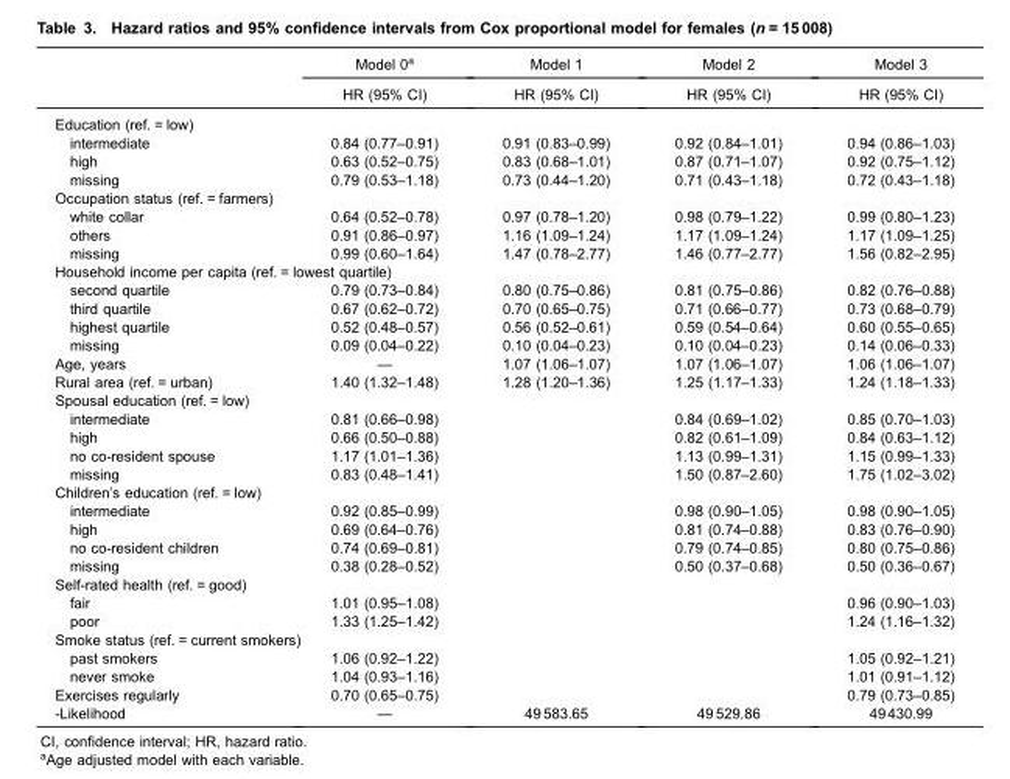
<table><thead><tr><td rowspan="2"></td><td rowspan="2">Model 0a HR (95% CI)</td><td rowspan="2">Model 1 HR (95% CI)</td><td rowspan="2">Model 2 HR (95% CI)</td><td rowspan="2">Model 3 HR (95% CI)</td></tr><tr></tr></thead><tbody><tr><td colspan="5">Education (ref. = low)</td></tr><tr><td>intermediate</td><td>0.84 (0.77–0.91)</td><td>0.91 (0.83–0.99)</td><td>0.92 (0.84–1.01)</td><td>0.94 (0.86–1.03)</td></tr><tr><td>high</td><td>0.63 (0.52–0.75)</td><td>0.83 (0.68–1.01)</td><td>0.87 (0.71–1.07)</td><td>0.92 (0.75–1.12)</td></tr><tr><td>missing</td><td>0.79 (0.53–1.18)</td><td>0.73 (0.44–1.20)</td><td>0.71 (0.43–1.18)</td><td>0.72 (0.43–1.18)</td></tr><tr><td colspan="5">Occupation status (ref. = farmers)</td></tr><tr><td>white collar</td><td>0.64 (0.52–0.78)</td><td>0.97 (0.78–1.20)</td><td>0.98 (0.79–1.22)</td><td>0.99 (0.80–1.23)</td></tr><tr><td>others</td><td>0.91 (0.86–0.97)</td><td>1.16 (1.09–1.24)</td><td>1.17 (1.09–1.24)</td><td>1.17 (1.09–1.25)</td></tr><tr><td>missing</td><td>0.99 (0.60–1.64)</td><td>1.47 (0.78–2.77)</td><td>1.46 (0.77–2.77)</td><td>1.56 (0.82–2.95)</td></tr><tr><td colspan="5">Household income per capita (ref. = lowest quartile)</td></tr><tr><td>second quartile</td><td>0.79 (0.73–0.84)</td><td>0.80 (0.75–0.86)</td><td>0.81 (0.75–0.86)</td><td>0.82 (0.76–0.88)</td></tr><tr><td>third quartile</td><td>0.67 (0.62–0.72)</td><td>0.70 (0.65–0.75)</td><td>0.71 (0.66–0.77)</td><td>0.73 (0.68–0.79)</td></tr><tr><td>highest quartile</td><td>0.52 (0.48–0.57)</td><td>0.56 (0.52–0.61)</td><td>0.59 (0.54–0.64)</td><td>0.60 (0.55–0.65)</td></tr><tr><td>missing</td><td>0.09 (0.04–0.22)</td><td>0.10 (0.04–0.23)</td><td>0.10 (0.04–0.23)</td><td>0.14 (0.06–0.33)</td></tr><tr><td>Age, years</td><td>—</td><td>1.07 (1.06–1.07)</td><td>1.07 (1.06–1.07)</td><td>1.06 (1.06–1.07)</td></tr><tr><td>Rural area (ref. = urban)</td><td>1.40 (1.32–1.48)</td><td>1.28 (1.20–1.36)</td><td>1.25 (1.17–1.33)</td><td>1.24 (1.18–1.33)</td></tr><tr><td colspan="5">Spousal education (ref. = low)</td></tr><tr><td>intermediate</td><td>0.81 (0.66–0.98)</td><td></td><td>0.84 (0.69–1.02)</td><td>0.85 (0.70–1.03)</td></tr><tr><td>high</td><td>0.66 (0.50–0.88)</td><td></td><td>0.82 (0.61–1.09)</td><td>0.84 (0.63–1.12)</td></tr><tr><td>no co-resident spouse</td><td>1.17 (1.01–1.36)</td><td></td><td>1.13 (0.99–1.31)</td><td>1.15 (0.99–1.33)</td></tr><tr><td>missing</td><td>0.83 (0.48–1.41)</td><td></td><td>1.50 (0.87–2.60)</td><td>1.75 (1.02–3.02)</td></tr><tr><td colspan="5">Children’s education (ref. = low)</td></tr><tr><td>intermediate</td><td>0.92 (0.85–0.99)</td><td></td><td>0.98 (0.90–1.05)</td><td>0.98 (0.90–1.05)</td></tr><tr><td>high</td><td>0.69 (0.64–0.76)</td><td></td><td>0.81 (0.74–0.88)</td><td>0.83 (0.76–0.90)</td></tr><tr><td>no co-resident children</td><td>0.74 (0.69–0.81)</td><td></td><td>0.79 (0.74–0.85)</td><td>0.80 (0.75–0.86)</td></tr><tr><td>missing</td><td>0.38 (0.28–0.52)</td><td></td><td>0.50 (0.37–0.68)</td><td>0.50 (0.36–0.67)</td></tr><tr><td colspan="5">Self-rated health (ref. = good)</td></tr><tr><td>fair</td><td>1.01 (0.95–1.08)</td><td></td><td></td><td>0.96 (0.90–1.03)</td></tr><tr><td>poor</td><td>1.33 (1.25–1.42)</td><td></td><td></td><td>1.24 (1.16–1.32)</td></tr><tr><td colspan="5">Smoke status (ref. = current smokers)</td></tr><tr><td>past smokers</td><td>1.06 (0.92–1.22)</td><td></td><td></td><td>1.05 (0.92–1.21)</td></tr><tr><td>never smoke</td><td>1.04 (0.93–1.16)</td><td></td><td></td><td>1.01 (0.91–1.12)</td></tr><tr><td>Exercises regularly</td><td>0.70 (0.65–0.75)</td><td></td><td></td><td>0.79 (0.73–0.85)</td></tr><tr><td>-Likelihood</td><td>—</td><td>49 583.65</td><td>49 529.86</td><td>49 430.99</td></tr></tbody></table>